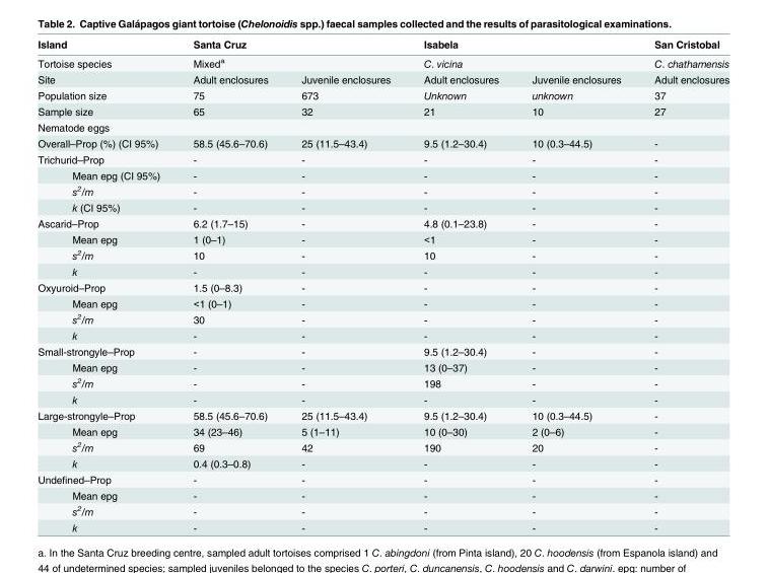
<table><thead><tr><td>Island</td><td>Santa Cruz</td><td></td><td>Isabela</td><td></td><td>San Cristobal</td></tr></thead><tbody><tr><td>Tortoise species</td><td>Mixed<sup>a</sup></td><td></td><td>C. vicina</td><td></td><td>C. chathamensis</td></tr><tr><td>Site</td><td>Adult enclosures</td><td>Juvenile enclosures</td><td>Adult enclosures</td><td>Juvenile enclosures</td><td>Adult enclosures</td></tr><tr><td>Population size</td><td>75</td><td>673</td><td>Unknown</td><td>unknown</td><td>37</td></tr><tr><td>Sample size</td><td>65</td><td>32</td><td>21</td><td>10</td><td>27</td></tr><tr><td colspan="6">Nematode eggs</td></tr><tr><td>Overall–Prop (%) (CI 95%)</td><td>58.5 (45.6–70.6)</td><td>25 (11.5–43.4)</td><td>9.5 (1.2–30.4)</td><td>10 (0.3–44.5)</td><td>-</td></tr><tr><td>Trichurid–Prop</td><td>-</td><td>-</td><td>-</td><td>-</td><td>-</td></tr><tr><td>Mean epg (CI 95%)</td><td>-</td><td>-</td><td>-</td><td>-</td><td>-</td></tr><tr><td>s<sup>2</sup>/m</td><td>-</td><td>-</td><td>-</td><td>-</td><td>-</td></tr><tr><td>k (CI 95%)</td><td>-</td><td>-</td><td>-</td><td>-</td><td>-</td></tr><tr><td>Ascarid–Prop</td><td>6.2 (1.7–15)</td><td>-</td><td>4.8 (0.1–23.8)</td><td>-</td><td>-</td></tr><tr><td>Mean epg</td><td>1 (0–1)</td><td>-</td><td>&lt;1</td><td>-</td><td>-</td></tr><tr><td>s<sup>2</sup>/m</td><td>10</td><td>-</td><td>10</td><td>-</td><td>-</td></tr><tr><td>k</td><td>-</td><td>-</td><td>-</td><td>-</td><td>-</td></tr><tr><td>Oxyuroid–Prop</td><td>1.5 (0–8.3)</td><td>-</td><td>-</td><td>-</td><td>-</td></tr><tr><td>Mean epg</td><td>&lt;1 (0–1)</td><td>-</td><td>-</td><td>-</td><td>-</td></tr><tr><td>s<sup>2</sup>/m</td><td>30</td><td>-</td><td>-</td><td>-</td><td>-</td></tr><tr><td>k</td><td>-</td><td>-</td><td>-</td><td>-</td><td>-</td></tr><tr><td>Small-strongyle–Prop</td><td>-</td><td>-</td><td>9.5 (1.2–30.4)</td><td>-</td><td>-</td></tr><tr><td>Mean epg</td><td>-</td><td>-</td><td>13 (0–37)</td><td>-</td><td>-</td></tr><tr><td>s<sup>2</sup>/m</td><td>-</td><td>-</td><td>198</td><td>-</td><td>-</td></tr><tr><td>k</td><td>-</td><td>-</td><td>-</td><td>-</td><td>-</td></tr><tr><td>Large-strongyle–Prop</td><td>58.5 (45.6–70.6)</td><td>25 (11.5–43.4)</td><td>9.5 (1.2–30.4)</td><td>10 (0.3–44.5)</td><td>-</td></tr><tr><td>Mean epg</td><td>34 (23–46)</td><td>5 (1–11)</td><td>10 (0–30)</td><td>2 (0–6)</td><td>-</td></tr><tr><td>s<sup>2</sup>/m</td><td>69</td><td>42</td><td>190</td><td>20</td><td>-</td></tr><tr><td>k</td><td>0.4 (0.3–0.8)</td><td>-</td><td>-</td><td>-</td><td>-</td></tr><tr><td>Undefined–Prop</td><td>-</td><td>-</td><td>-</td><td>-</td><td>-</td></tr><tr><td>Mean epg</td><td>-</td><td>-</td><td>-</td><td>-</td><td>-</td></tr><tr><td>s<sup>2</sup>/m</td><td>-</td><td>-</td><td>-</td><td>-</td><td>-</td></tr><tr><td>k</td><td>-</td><td>-</td><td>-</td><td>-</td><td>-</td></tr></tbody></table>